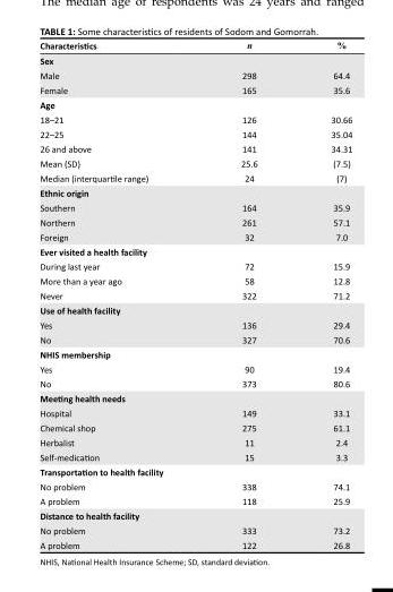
<table><thead><tr><td>Characteristics</td><td>n</td><td>%</td></tr></thead><tbody><tr><td colspan="3">Sex</td></tr><tr><td>Male</td><td>298</td><td>64.4</td></tr><tr><td>Female</td><td>165</td><td>35.6</td></tr><tr><td colspan="3">Age</td></tr><tr><td>18–21</td><td>126</td><td>30.66</td></tr><tr><td>22–25</td><td>144</td><td>35.04</td></tr><tr><td>26 and above</td><td>141</td><td>34.31</td></tr><tr><td>Mean (SD)</td><td>25.6</td><td>(7.5)</td></tr><tr><td>Median (interquartile range)</td><td>24</td><td>(7)</td></tr><tr><td colspan="3">Ethnic origin</td></tr><tr><td>Southern</td><td>164</td><td>35.9</td></tr><tr><td>Northern</td><td>261</td><td>57.1</td></tr><tr><td>Foreign</td><td>32</td><td>7.0</td></tr><tr><td colspan="3">Ever visited a health facility</td></tr><tr><td>During last year</td><td>72</td><td>15.9</td></tr><tr><td>More than a year ago</td><td>58</td><td>12.8</td></tr><tr><td>Never</td><td>322</td><td>71.2</td></tr><tr><td colspan="3">Use of health facility</td></tr><tr><td>Yes</td><td>136</td><td>29.4</td></tr><tr><td>No</td><td>327</td><td>70.6</td></tr><tr><td colspan="3">NHIS membership</td></tr><tr><td>Yes</td><td>90</td><td>19.4</td></tr><tr><td>No</td><td>373</td><td>80.6</td></tr><tr><td colspan="3">Meeting health needs</td></tr><tr><td>Hospital</td><td>149</td><td>33.1</td></tr><tr><td>Chemical shop</td><td>275</td><td>61.1</td></tr><tr><td>Herbalist</td><td>11</td><td>2.4</td></tr><tr><td>Self-medication</td><td>15</td><td>3.3</td></tr><tr><td colspan="3">Transportation to health facility</td></tr><tr><td>No problem</td><td>338</td><td>74.1</td></tr><tr><td>A problem</td><td>118</td><td>25.9</td></tr><tr><td colspan="3">Distance to health facility</td></tr><tr><td>No problem</td><td>333</td><td>73.2</td></tr><tr><td>A problem</td><td>122</td><td>26.8</td></tr></tbody></table>